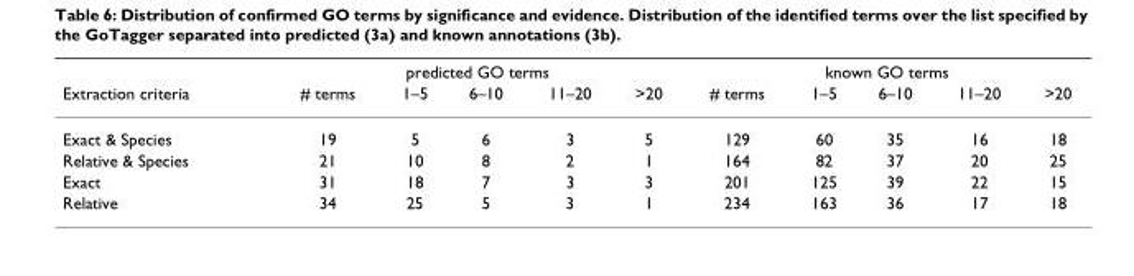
<table><thead><tr><td rowspan="2">Extraction criteria</td><td colspan="5">predicted GO terms</td><td colspan="5">known GO terms</td></tr><tr><td># terms</td><td>1–5</td><td>6–10</td><td>11–20</td><td>&gt;20</td><td># terms</td><td>1–5</td><td>6–10</td><td>11–20</td><td>&gt;20</td></tr></thead><tbody><tr><td>Exact &amp; Species</td><td>19</td><td>5</td><td>6</td><td>3</td><td>5</td><td>129</td><td>60</td><td>35</td><td>16</td><td>18</td></tr><tr><td>Relative &amp; Species</td><td>21</td><td>10</td><td>8</td><td>2</td><td>1</td><td>164</td><td>82</td><td>37</td><td>20</td><td>25</td></tr><tr><td>Exact</td><td>31</td><td>18</td><td>7</td><td>3</td><td>3</td><td>201</td><td>125</td><td>39</td><td>22</td><td>15</td></tr><tr><td>Relative</td><td>34</td><td>25</td><td>5</td><td>3</td><td>1</td><td>234</td><td>163</td><td>36</td><td>17</td><td>18</td></tr></tbody></table>